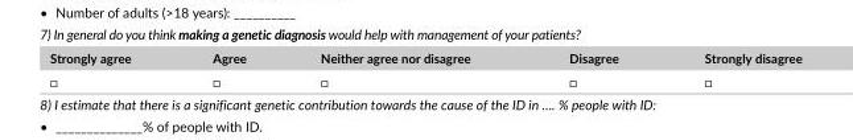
<table><thead><tr><td>Strongly agree</td><td>Agree</td><td>Neither agree nor disagree</td><td>Disagree</td><td>Strongly disagree</td></tr></thead><tbody><tr><td>□</td><td>□</td><td>□</td><td>□</td><td>□</td></tr></tbody></table>